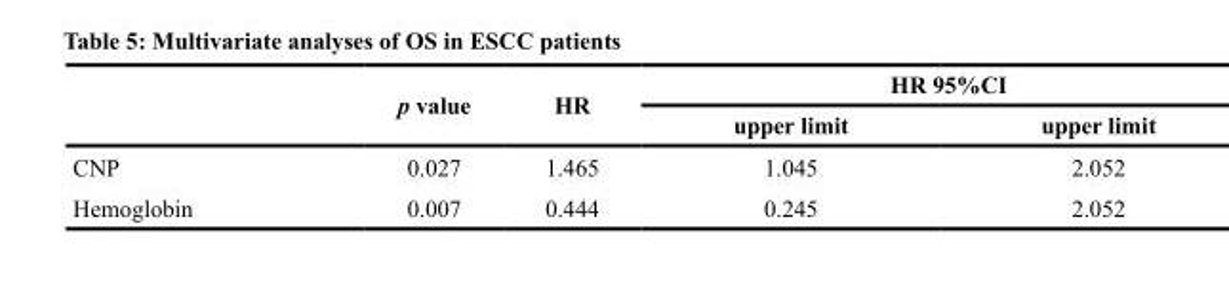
<table><thead><tr><td rowspan="2"></td><td rowspan="2">p value</td><td rowspan="2">HR</td><td colspan="2">HR 95%CI</td></tr><tr><td>upper limit</td><td>upper limit</td></tr></thead><tbody><tr><td>CNP</td><td>0.027</td><td>1.465</td><td>1.045</td><td>2.052</td></tr><tr><td>Hemoglobin</td><td>0.007</td><td>0.444</td><td>0.245</td><td>2.052</td></tr></tbody></table>